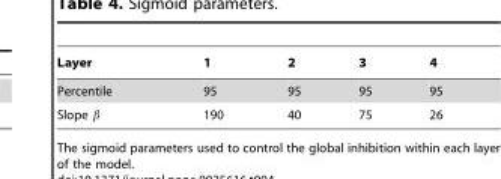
<table><thead><tr><td>Layer</td><td>1</td><td>2</td><td>3</td><td>4</td></tr></thead><tbody><tr><td>Percentile</td><td>95</td><td>95</td><td>95</td><td>95</td></tr><tr><td>Slope β</td><td>190</td><td>40</td><td>75</td><td>26</td></tr></tbody></table>